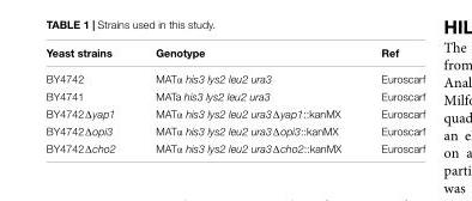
<table><thead><tr><td>Yeast strains</td><td>Genotype</td><td>Ref</td></tr></thead><tbody><tr><td>BY4742</td><td>MATα his3 lys2 leu2 ura3</td><td>Euroscarf</td></tr><tr><td>BY4741</td><td>MATa his3 lys2 leu2 ura3</td><td>Euroscarf</td></tr><tr><td>BY4742Δyap1</td><td>MATα his3 lys2 leu2 ura3Δyap1::kanMX</td><td>Euroscarf</td></tr><tr><td>BY4742Δopi3</td><td>MATα his3 lys2 leu2 ura3Δopi3::kanMX</td><td>Euroscarf</td></tr><tr><td>BY4742Δcho2</td><td>MATα his3 lys2 leu2 ura3Δcho2::kanMX</td><td>Euroscarf</td></tr></tbody></table>